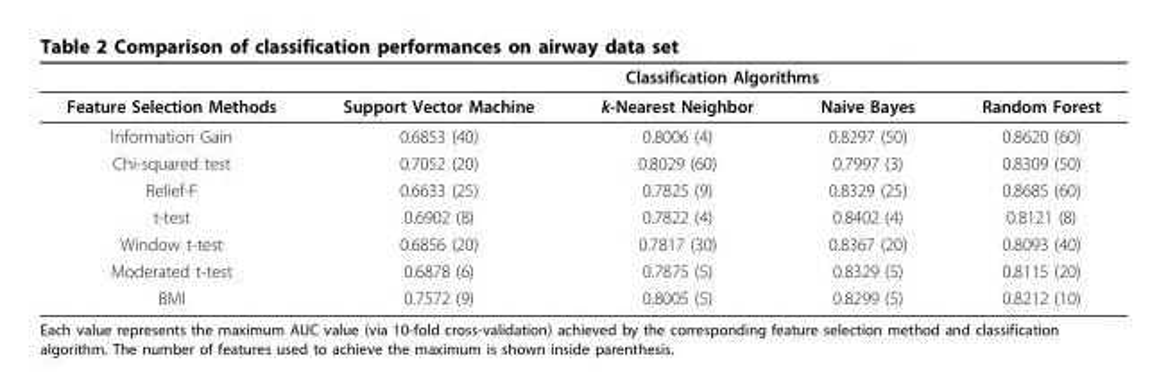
<table><thead><tr><td rowspan="2">Feature Selection Methods</td><td colspan="4">Classification Algorithms</td></tr><tr><td>Support Vector Machine</td><td>k-Nearest Neighbor</td><td>Naive Bayes</td><td>Random Forest</td></tr></thead><tbody><tr><td>Information Gain</td><td>0.6853 (40)</td><td>0.8006 (4)</td><td>0.8297 (50)</td><td>0.8620 (60)</td></tr><tr><td>Chi-squared test</td><td>0.7052 (20)</td><td>0.8029 (60)</td><td>0.7997 (3)</td><td>0.8309 (50)</td></tr><tr><td>Relief-F</td><td>0.6633 (25)</td><td>0.7825 (9)</td><td>0.8329 (25)</td><td>0.8685 (60)</td></tr><tr><td>t-test</td><td>0.6902 (8)</td><td>0.7822 (4)</td><td>0.8402 (4)</td><td>0.8121 (8)</td></tr><tr><td>Window t-test</td><td>0.6856 (20)</td><td>0.7817 (30)</td><td>0.8367 (20)</td><td>0.8093 (40)</td></tr><tr><td>Moderated t-test</td><td>0.6878 (6)</td><td>0.7875 (5)</td><td>0.8329 (5)</td><td>0.8115 (20)</td></tr><tr><td>BMI</td><td>0.7572 (9)</td><td>0.8005 (5)</td><td>0.8299 (5)</td><td>0.8212 (10)</td></tr></tbody></table>